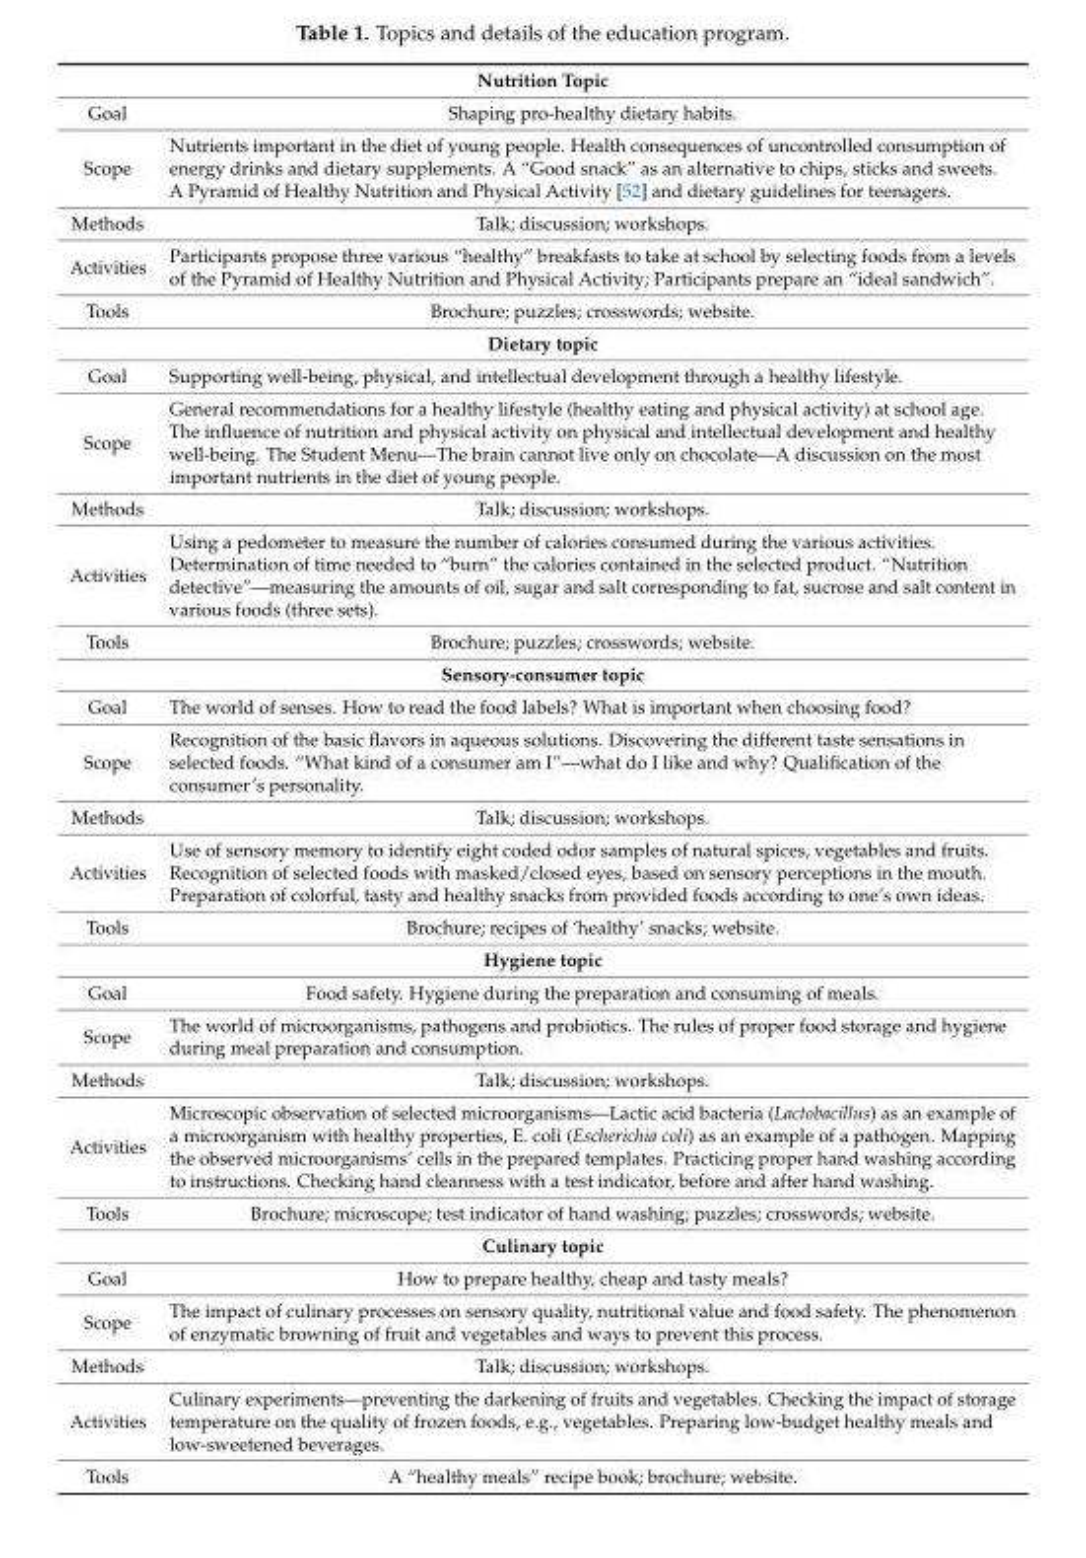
<table><tbody><tr><td colspan="2">Nutrition Topic</td></tr><tr><td>Goal</td><td>Shaping pro-healthy dietary habits.</td></tr><tr><td>Scope</td><td>Nutrients important in the diet of young people. Health consequences of uncontrolled consumption of energy drinks and dietary supplements. A “Good snack” as an alternative to chips, sticks and sweets. A Pyramid of Healthy Nutrition and Physical Activity [52] and dietary guidelines for teenagers.</td></tr><tr><td>Methods</td><td>Talk; discussion; workshops.</td></tr><tr><td>Activities</td><td>Participants propose three various “healthy” breakfasts to take at school by selecting foods from a levels of the Pyramid of Healthy Nutrition and Physical Activity; Participants prepare an “ideal sandwich”.</td></tr><tr><td>Tools</td><td>Brochure; puzzles; crosswords; website.</td></tr><tr><td colspan="2">Dietary topic</td></tr><tr><td>Goal</td><td>Supporting well-being, physical, and intellectual development through a healthy lifestyle.</td></tr><tr><td>Scope</td><td>General recommendations for a healthy lifestyle (healthy eating and physical activity) at school age. The influence of nutrition and physical activity on physical and intellectual development and healthy well-being. The Student Menu—The brain cannot live only on chocolate—A discussion on the most important nutrients in the diet of young people.</td></tr><tr><td>Methods</td><td>Talk; discussion; workshops.</td></tr><tr><td>Activities</td><td>Using a pedometer to measure the number of calories consumed during the various activities. Determination of time needed to “burn” the calories contained in the selected product. “Nutrition detective”—measuring the amounts of oil, sugar and salt corresponding to fat, sucrose and salt content in various foods (three sets).</td></tr><tr><td>Tools</td><td>Brochure; puzzles; crosswords; website.</td></tr><tr><td colspan="2">Sensory-consumer topic</td></tr><tr><td>Goal</td><td>The world of senses. How to read the food labels? What is important when choosing food?</td></tr><tr><td>Scope</td><td>Recognition of the basic flavors in aqueous solutions. Discovering the different taste sensations in selected foods. “What kind of a consumer am I”—what do I like and why? Qualification of the consumer’s personality.</td></tr><tr><td>Methods</td><td>Talk; discussion; workshops.</td></tr><tr><td>Activities</td><td>Use of sensory memory to identify eight coded odor samples of natural spices, vegetables and fruits. Recognition of selected foods with masked/closed eyes, based on sensory perceptions in the mouth. Preparation of colorful, tasty and healthy snacks from provided foods according to one’s own ideas.</td></tr><tr><td>Tools</td><td>Brochure; recipes of ‘healthy’ snacks; website.</td></tr><tr><td colspan="2">Hygiene topic</td></tr><tr><td>Goal</td><td>Food safety. Hygiene during the preparation and consuming of meals.</td></tr><tr><td>Scope</td><td>The world of microorganisms, pathogens and probiotics. The rules of proper food storage and hygiene during meal preparation and consumption.</td></tr><tr><td>Methods</td><td>Talk; discussion; workshops.</td></tr><tr><td>Activities</td><td>Microscopic observation of selected microorganisms—Lactic acid bacteria (Lactobacillus) as an example of a microorganism with healthy properties, E. coli (Escherichia coli) as an example of a pathogen. Mapping the observed microorganisms’ cells in the prepared templates. Practicing proper hand washing according to instructions. Checking hand cleanness with a test indicator, before and after hand washing.</td></tr><tr><td>Tools</td><td>Brochure; microscope; test indicator of hand washing; puzzles; crosswords; website.</td></tr><tr><td colspan="2">Culinary topic</td></tr><tr><td>Goal</td><td>How to prepare healthy, cheap and tasty meals?</td></tr><tr><td>Scope</td><td>The impact of culinary processes on sensory quality, nutritional value and food safety. The phenomenon of enzymatic browning of fruit and vegetables and ways to prevent this process.</td></tr><tr><td>Methods</td><td>Talk; discussion; workshops.</td></tr><tr><td>Activities</td><td>Culinary experiments—preventing the darkening of fruits and vegetables. Checking the impact of storage temperature on the quality of frozen foods, e.g., vegetables. Preparing low-budget healthy meals and low-sweetened beverages.</td></tr><tr><td>Tools</td><td>A “healthy meals” recipe book; brochure; website.</td></tr></tbody></table>